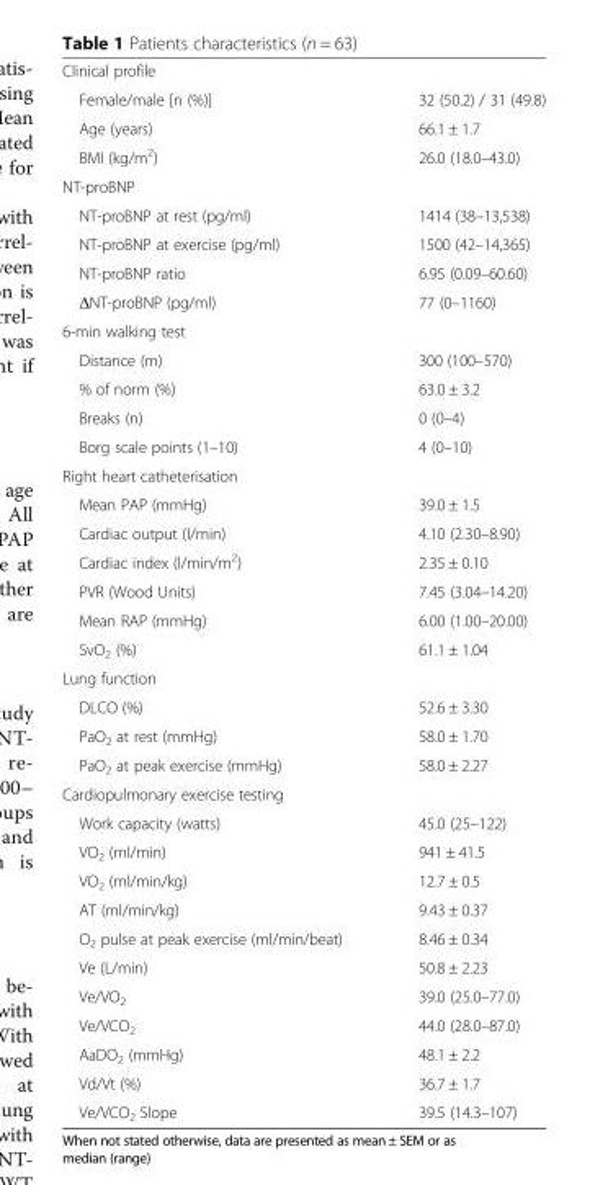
<table><tbody><tr><td colspan="2">Clinical profile</td></tr><tr><td>Female/male [n (%)]</td><td>32 (50.2) / 31 (49.8)</td></tr><tr><td>Age (years)</td><td>66.1 ± 1.7</td></tr><tr><td>BMI (kg/m<sup>2</sup>)</td><td>26.0 (18.0–43.0)</td></tr><tr><td colspan="2">NT-proBNP</td></tr><tr><td>NT-proBNP at rest (pg/ml)</td><td>1414 (38–13,538)</td></tr><tr><td>NT-proBNP at exercise (pg/ml)</td><td>1500 (42–14,365)</td></tr><tr><td>NT-proBNP ratio</td><td>6.95 (0.09–60.60)</td></tr><tr><td>ΔNT-proBNP (pg/ml)</td><td>77 (0–1160)</td></tr><tr><td colspan="2">6-min walking test</td></tr><tr><td>Distance (m)</td><td>300 (100–570)</td></tr><tr><td>% of norm (%)</td><td>63.0 ± 3.2</td></tr><tr><td>Breaks (n)</td><td>0 (0–4)</td></tr><tr><td>Borg scale points (1–10)</td><td>4 (0–10)</td></tr><tr><td colspan="2">Right heart catheterisation</td></tr><tr><td>Mean PAP (mmHg)</td><td>39.0 ± 1.5</td></tr><tr><td>Cardiac output (l/min)</td><td>4.10 (2.30–8.90)</td></tr><tr><td>Cardiac index (l/min/m<sup>2</sup>)</td><td>2.35 ± 0.10</td></tr><tr><td>PVR (Wood Units)</td><td>7.45 (3.04–14.20)</td></tr><tr><td>Mean RAP (mmHg)</td><td>6.00 (1.00–20.00)</td></tr><tr><td>SvO<sub>2</sub> (%)</td><td>61.1 ± 1.04</td></tr><tr><td colspan="2">Lung function</td></tr><tr><td>DLCO (%)</td><td>52.6 ± 3.30</td></tr><tr><td>PaO<sub>2</sub> at rest (mmHg)</td><td>58.0 ± 1.70</td></tr><tr><td>PaO<sub>2</sub> at peak exercise (mmHg)</td><td>58.0 ± 2.27</td></tr><tr><td colspan="2">Cardiopulmonary exercise testing</td></tr><tr><td>Work capacity (watts)</td><td>45.0 (25–122)</td></tr><tr><td>VO<sub>2</sub> (ml/min)</td><td>941 ± 41.5</td></tr><tr><td>VO<sub>2</sub> (ml/min/kg)</td><td>12.7 ± 0.5</td></tr><tr><td>AT (ml/min/kg)</td><td>9.43 ± 0.37</td></tr><tr><td>O<sub>2</sub> pulse at peak exercise (ml/min/beat)</td><td>8.46 ± 0.34</td></tr><tr><td>Ve (L/min)</td><td>50.8 ± 2.23</td></tr><tr><td>Ve/VO<sub>2</sub></td><td>39.0 (25.0–77.0)</td></tr><tr><td>Ve/VCO<sub>2</sub></td><td>44.0 (28.0–87.0)</td></tr><tr><td>AaDO<sub>2</sub> (mmHg)</td><td>48.1 ± 2.2</td></tr><tr><td>Vd/Vt (%)</td><td>36.7 ± 1.7</td></tr><tr><td>Ve/VCO<sub>2</sub> Slope</td><td>39.5 (14.3–107)</td></tr></tbody></table>